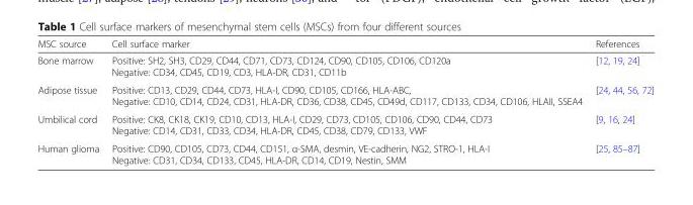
<table><thead><tr><td>MSC source</td><td>Cell surface marker</td><td>References</td></tr></thead><tbody><tr><td>Bone marrow</td><td>Positive: SH2, SH3, CD29, CD44, CD71, CD73, CD124, CD90, CD105, CD106, CD120a Negative: CD34, CD45, CD19, CD3, HLA-DR, CD31, CD11b</td><td>[12, 19, 24]</td></tr><tr><td>Adipose tissue</td><td>Positive: CD13, CD29, CD44, CD73, HLA-I, CD90, CD105, CD166, HLA-ABC, Negative: CD10, CD14, CD24, CD31, HLA-DR, CD36, CD38, CD45, CD49d, CD117, CD133, CD34, CD106, HLAII, SSEA4</td><td>[24, 44, 56, 72]</td></tr><tr><td>Umbilical cord</td><td>Positive: CK8, CK18, CK19, CD10, CD13, HLA-I, CD29, CD73, CD105, CD106, CD90, CD44, CD73 Negative: CD14, CD31, CD33, CD34, HLA-DR, CD45, CD38, CD79, CD133, VWF</td><td>[9, 16, 24]</td></tr><tr><td>Human glioma</td><td>Positive: CD90, CD105, CD73, CD44, CD151, α-SMA, desmin, VE-cadherin, NG2, STRO-1, HLA-I Negative: CD31, CD34, CD133, CD45, HLA-DR, CD14, CD19, Nestin, SMM</td><td>[25, 85–87]</td></tr></tbody></table>